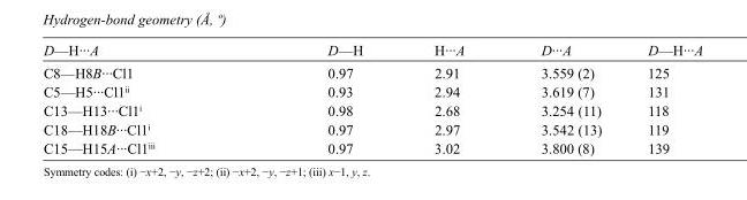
<table><tbody><tr><td>D—H···A</td><td>D—H</td><td>H···A</td><td>D···A</td><td>D—H···A</td></tr><tr><td>C8—H8B···Cl1</td><td>0.97</td><td>2.91</td><td>3.559 (2)</td><td>125</td></tr><tr><td>C5—H5···Cl1<sup>ii</sup></td><td>0.93</td><td>2.94</td><td>3.619 (7)</td><td>131</td></tr><tr><td>C13—H13···Cl1<sup>i</sup></td><td>0.98</td><td>2.68</td><td>3.254 (11)</td><td>118</td></tr><tr><td>C18—H18B···Cl1<sup>i</sup></td><td>0.97</td><td>2.97</td><td>3.542 (13)</td><td>119</td></tr><tr><td>C15—H15A···Cl1<sup>iii</sup></td><td>0.97</td><td>3.02</td><td>3.800 (8)</td><td>139</td></tr></tbody></table>